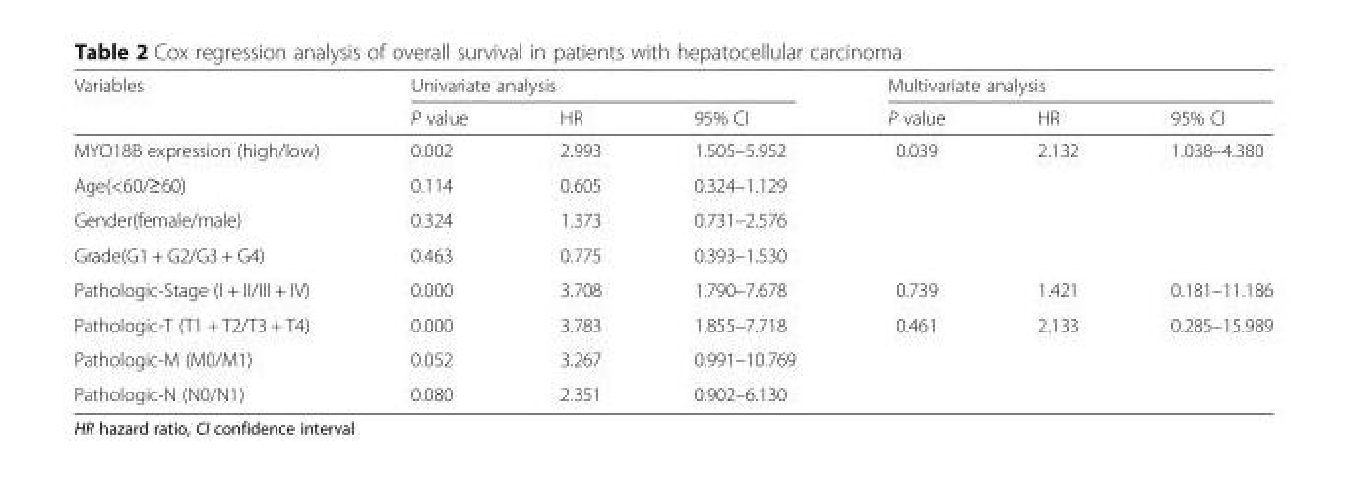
<table><thead><tr><td rowspan="2">Variables</td><td colspan="3">Univariate analysis</td><td colspan="3">Multivariate analysis</td></tr><tr><td>P value</td><td>HR</td><td>95% CI</td><td>P value</td><td>HR</td><td>95% CI</td></tr></thead><tbody><tr><td>MYO18B expression (high/low)</td><td>0.002</td><td>2.993</td><td>1.505–5.952</td><td>0.039</td><td>2.132</td><td>1.038–4.380</td></tr><tr><td>Age(&lt;60/≥60)</td><td>0.114</td><td>0.605</td><td>0.324–1.129</td><td></td><td></td><td></td></tr><tr><td>Gender(female/male)</td><td>0.324</td><td>1.373</td><td>0.731–2.576</td><td></td><td></td><td></td></tr><tr><td>Grade(G1 + G2/G3 + G4)</td><td>0.463</td><td>0.775</td><td>0.393–1.530</td><td></td><td></td><td></td></tr><tr><td>Pathologic-Stage (I + II/III + IV)</td><td>0.000</td><td>3.708</td><td>1.790–7.678</td><td>0.739</td><td>1.421</td><td>0.181–11.186</td></tr><tr><td>Pathologic-T (T1 + T2/T3 + T4)</td><td>0.000</td><td>3.783</td><td>1.855–7.718</td><td>0.461</td><td>2.133</td><td>0.285–15.989</td></tr><tr><td>Pathologic-M (M0/M1)</td><td>0.052</td><td>3.267</td><td>0.991–10.769</td><td></td><td></td><td></td></tr><tr><td>Pathologic-N (N0/N1)</td><td>0.080</td><td>2.351</td><td>0.902–6.130</td><td></td><td></td><td></td></tr></tbody></table>